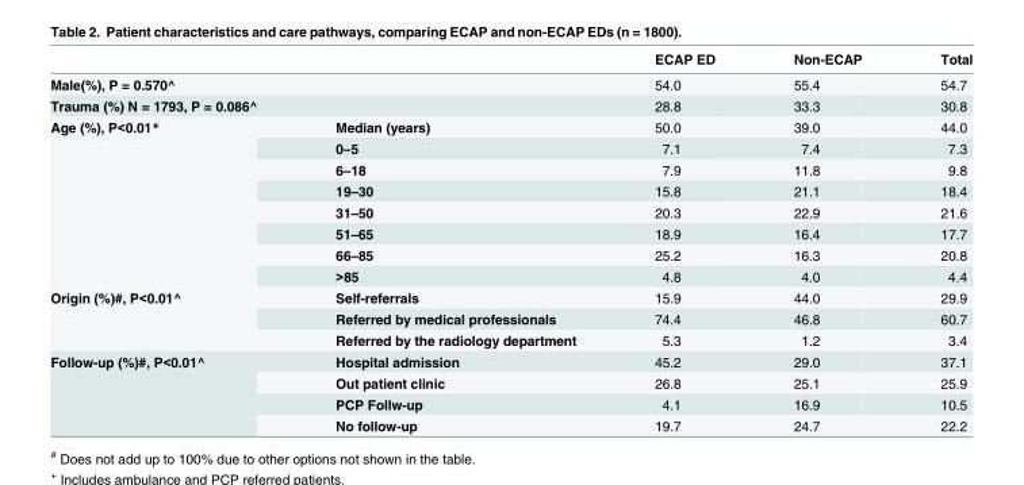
<table><thead><tr><td></td><td></td><td>ECAP ED</td><td>Non-ECAP</td><td>Total</td></tr></thead><tbody><tr><td>Male(%), P = 0.570^</td><td></td><td>54.0</td><td>55.4</td><td>54.7</td></tr><tr><td>Trauma (%) N = 1793, P = 0.086^</td><td></td><td>28.8</td><td>33.3</td><td>30.8</td></tr><tr><td rowspan="8">Age (%), P&lt;0.01*</td><td>Median (years)</td><td>50.0</td><td>39.0</td><td>44.0</td></tr><tr><td>0–5</td><td>7.1</td><td>7.4</td><td>7.3</td></tr><tr><td>6–18</td><td>7.9</td><td>11.8</td><td>9.8</td></tr><tr><td>19–30</td><td>15.8</td><td>21.1</td><td>18.4</td></tr><tr><td>31–50</td><td>20.3</td><td>22.9</td><td>21.6</td></tr><tr><td>51–65</td><td>18.9</td><td>16.4</td><td>17.7</td></tr><tr><td>66–85</td><td>25.2</td><td>16.3</td><td>20.8</td></tr><tr><td>&gt;85</td><td>4.8</td><td>4.0</td><td>4.4</td></tr><tr><td rowspan="3">Origin (%)#, P&lt;0.01^</td><td>Self-referrals</td><td>15.9</td><td>44.0</td><td>29.9</td></tr><tr><td>Referred by medical professionals</td><td>74.4</td><td>46.8</td><td>60.7</td></tr><tr><td>Referred by the radiology department</td><td>5.3</td><td>1.2</td><td>3.4</td></tr><tr><td rowspan="4">Follow-up (%)#, P&lt;0.01^</td><td>Hospital admission</td><td>45.2</td><td>29.0</td><td>37.1</td></tr><tr><td>Out patient clinic</td><td>26.8</td><td>25.1</td><td>25.9</td></tr><tr><td>PCP Follw-up</td><td>4.1</td><td>16.9</td><td>10.5</td></tr><tr><td>No follow-up</td><td>19.7</td><td>24.7</td><td>22.2</td></tr></tbody></table>